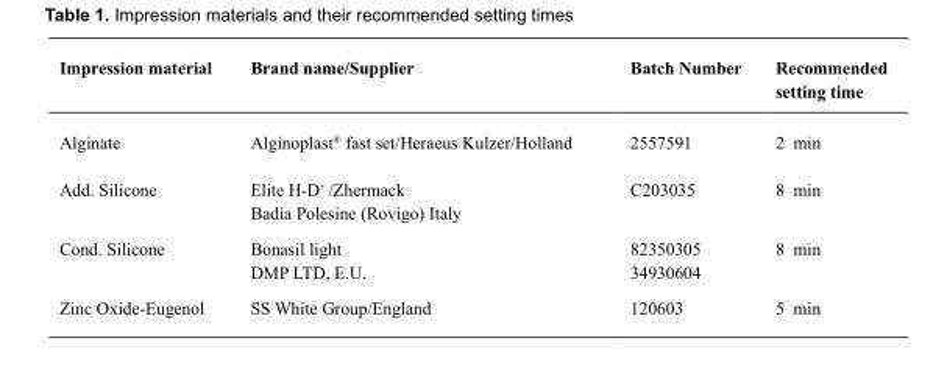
<table><thead><tr><td>Impression material</td><td>Brand name/Supplier</td><td>Batch Number</td><td>Recommended setting time</td></tr></thead><tbody><tr><td>Alginate</td><td>Alginoplast® fast set/Heraeus Kulzer/Holland</td><td>2557591</td><td>2 min</td></tr><tr><td>Add. Silicone</td><td>Elite H-D<sup>+</sup> /Zhermack Badia Polesine (Rovigo) Italy</td><td>C203035</td><td>8 min</td></tr><tr><td>Cond. Silicone</td><td>Bonasil light DMP LTD, E.U.</td><td>82350305 34930604</td><td>8 min</td></tr><tr><td>Zinc Oxide-Eugenol</td><td>SS White Group/England</td><td>120603</td><td>5 min</td></tr></tbody></table>